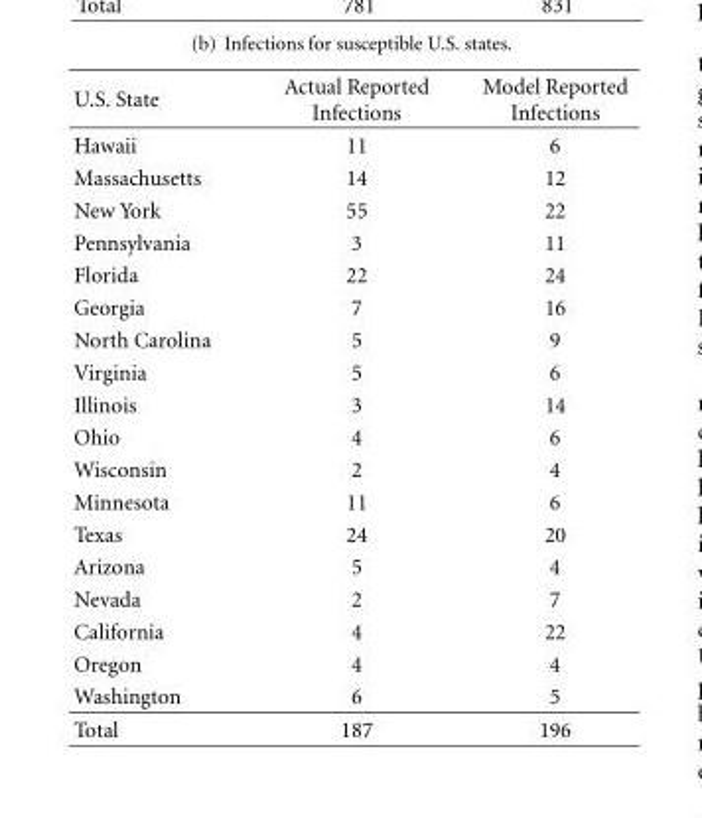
<table><thead><tr><td>U.S. State</td><td>Actual Reported Infections</td><td>Model Reported Infections</td></tr></thead><tbody><tr><td>Hawaii</td><td>11</td><td>6</td></tr><tr><td>Massachusetts</td><td>14</td><td>12</td></tr><tr><td>New York</td><td>55</td><td>22</td></tr><tr><td>Pennsylvania</td><td>3</td><td>11</td></tr><tr><td>Florida</td><td>22</td><td>24</td></tr><tr><td>Georgia</td><td>7</td><td>16</td></tr><tr><td>North Carolina</td><td>5</td><td>9</td></tr><tr><td>Virginia</td><td>5</td><td>6</td></tr><tr><td>Illinois</td><td>3</td><td>14</td></tr><tr><td>Ohio</td><td>4</td><td>6</td></tr><tr><td>Wisconsin</td><td>2</td><td>4</td></tr><tr><td>Minnesota</td><td>11</td><td>6</td></tr><tr><td>Texas</td><td>24</td><td>20</td></tr><tr><td>Arizona</td><td>5</td><td>4</td></tr><tr><td>Nevada</td><td>2</td><td>7</td></tr><tr><td>California</td><td>4</td><td>22</td></tr><tr><td>Oregon</td><td>4</td><td>4</td></tr><tr><td>Washington</td><td>6</td><td>5</td></tr><tr><td>Total</td><td>187</td><td>196</td></tr></tbody></table>